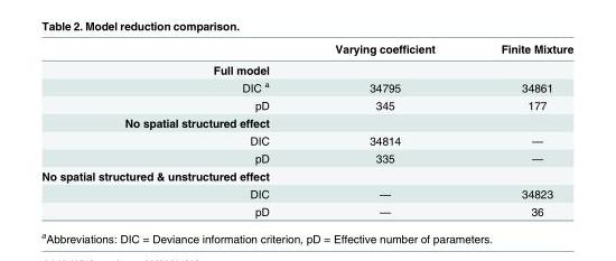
<table><thead><tr><td></td><td>Varying coefficient</td><td>Finite Mixture</td></tr></thead><tbody><tr><td colspan="3">Full model</td></tr><tr><td>DIC <sup>a</sup></td><td>34795</td><td>34861</td></tr><tr><td>pD</td><td>345</td><td>177</td></tr><tr><td colspan="3">No spatial structured effect</td></tr><tr><td>DIC</td><td>34814</td><td>—</td></tr><tr><td>pD</td><td>335</td><td>—</td></tr><tr><td colspan="3">No spatial structured &amp; unstructured effect</td></tr><tr><td>DIC</td><td>—</td><td>34823</td></tr><tr><td>pD</td><td>—</td><td>36</td></tr></tbody></table>